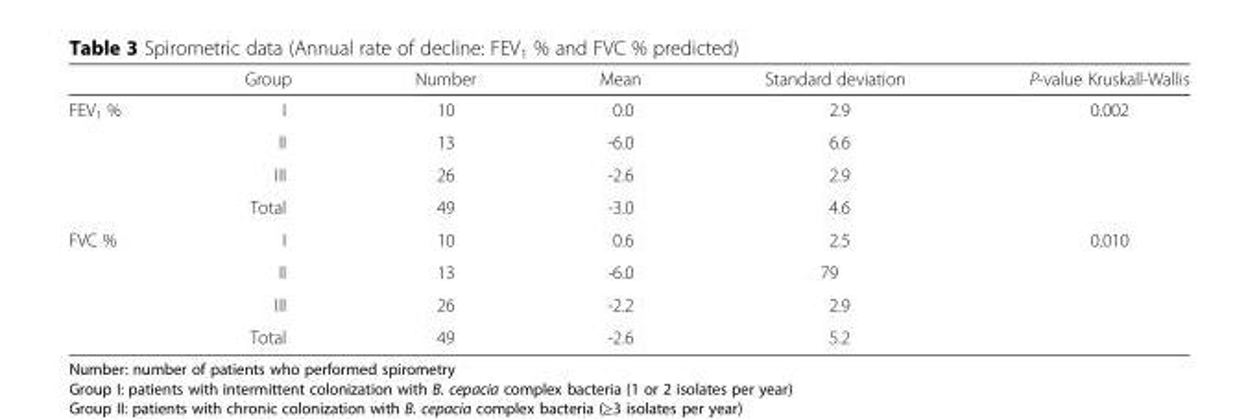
<table><thead><tr><td></td><td>Group</td><td>Number</td><td>Mean</td><td>Standard deviation</td><td>P-value Kruskall-Wallis</td></tr></thead><tbody><tr><td rowspan="4">FEV<sub>1</sub> %</td><td>I</td><td>10</td><td>0.0</td><td>2.9</td><td rowspan="3">0.002</td></tr><tr><td>II</td><td>13</td><td>-6.0</td><td>6.6</td></tr><tr><td>III</td><td>26</td><td>-2.6</td><td>2.9</td></tr><tr><td>Total</td><td>49</td><td>-3.0</td><td>4.6</td><td></td></tr><tr><td rowspan="4">FVC %</td><td>I</td><td>10</td><td>0.6</td><td>2.5</td><td rowspan="3">0.010</td></tr><tr><td>II</td><td>13</td><td>-6.0</td><td>79</td></tr><tr><td>III</td><td>26</td><td>-2.2</td><td>2.9</td></tr><tr><td>Total</td><td>49</td><td>-2.6</td><td>5.2</td><td></td></tr></tbody></table>